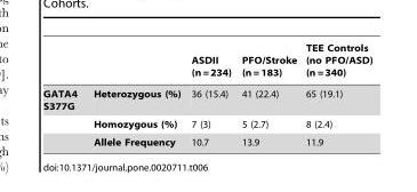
<table><thead><tr><td></td><td></td><td>ASDII (n = 234)</td><td>PFO/Stroke (n = 183)</td><td>TEE Controls (no PFO/ASD) (n = 340)</td></tr></thead><tbody><tr><td rowspan="3">GATA4 S377G</td><td>Heterozygous (%)</td><td>36 (15.4)</td><td>41 (22.4)</td><td>65 (19.1)</td></tr><tr><td>Homozygous (%)</td><td>7 (3)</td><td>5 (2.7)</td><td>8 (2.4)</td></tr><tr><td>Allele Frequency</td><td>10.7</td><td>13.9</td><td>11.9</td></tr></tbody></table>